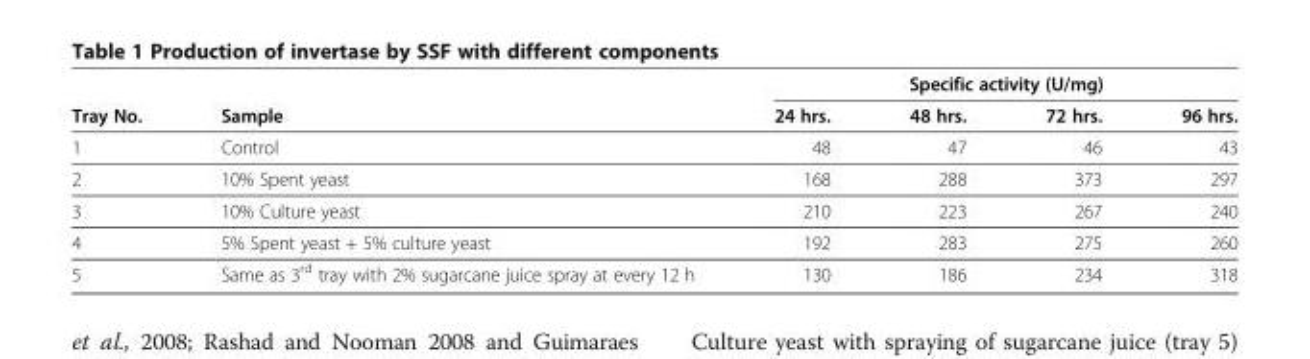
<table><thead><tr><td rowspan="2">Tray No.</td><td rowspan="2">Sample</td><td colspan="4">Specific activity (U/mg)</td></tr><tr><td>24 hrs.</td><td>48 hrs.</td><td>72 hrs.</td><td>96 hrs.</td></tr></thead><tbody><tr><td>1</td><td>Control</td><td>48</td><td>47</td><td>46</td><td>43</td></tr><tr><td>2</td><td>10% Spent yeast</td><td>168</td><td>288</td><td>373</td><td>297</td></tr><tr><td>3</td><td>10% Culture yeast</td><td>210</td><td>223</td><td>267</td><td>240</td></tr><tr><td>4</td><td>5% Spent yeast + 5% culture yeast</td><td>192</td><td>283</td><td>275</td><td>260</td></tr><tr><td>5</td><td>Same as 3<sup>rd</sup> tray with 2% sugarcane juice spray at every 12 h</td><td>130</td><td>186</td><td>234</td><td>318</td></tr></tbody></table>